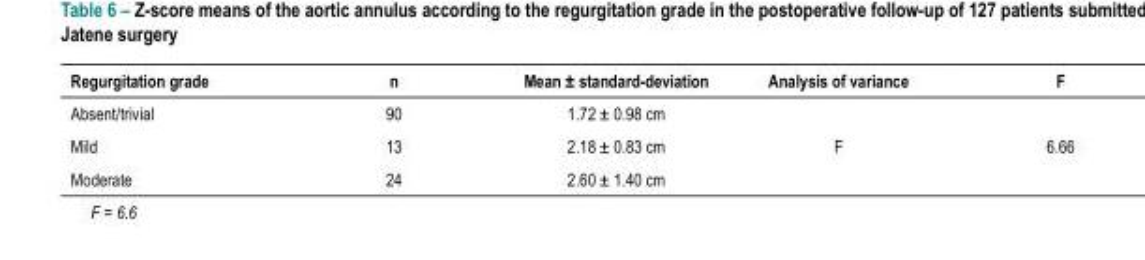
<table><thead><tr><td>Regurgitation grade</td><td>n</td><td>Mean ± standard-deviation</td><td>Analysis of variance</td><td>F</td></tr></thead><tbody><tr><td>Absent/trivial</td><td>90</td><td>1.72 ± 0.98 cm</td><td rowspan="3">F</td><td rowspan="3">6.66</td></tr><tr><td>Mild</td><td>13</td><td>2.18 ± 0.83 cm</td></tr><tr><td>Moderate</td><td>24</td><td>2.60 ± 1.40 cm</td></tr></tbody></table>